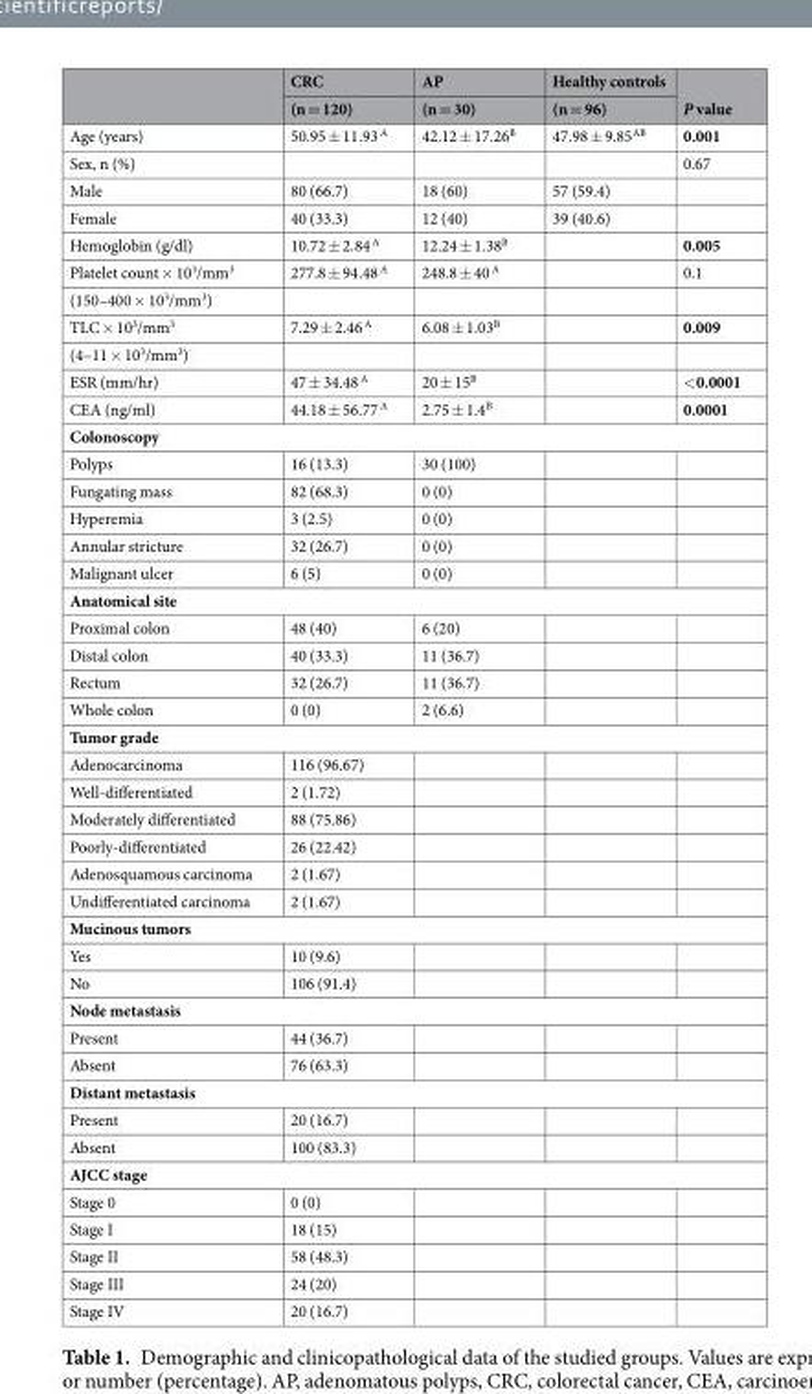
<table><thead><tr><td rowspan="2"></td><td rowspan="2">CRC (n = 120)</td><td rowspan="2">AP (n = 30)</td><td rowspan="2">Healthy controls (n = 96)</td><td rowspan="2">P value</td></tr><tr></tr></thead><tbody><tr><td>Age (years)</td><td>50.95 ± 11.93 <sup>A</sup></td><td>42.12 ± 17.26<sup>B</sup></td><td>47.98 ± 9.85<sup>AB</sup></td><td>0.001</td></tr><tr><td>Sex, n (%)</td><td></td><td></td><td></td><td>0.67</td></tr><tr><td>Male</td><td>80 (66.7)</td><td>18 (60)</td><td>57 (59.4)</td><td></td></tr><tr><td>Female</td><td>40 (33.3)</td><td>12 (40)</td><td>39 (40.6)</td><td></td></tr><tr><td>Hemoglobin (g/dl)</td><td>10.72 ± 2.84 <sup>A</sup></td><td>12.24 ± 1.38<sup>B</sup></td><td></td><td>0.005</td></tr><tr><td>Platelet count × 10<sup>3</sup>/mm<sup>3</sup></td><td>277.8 ± 94.48 <sup>A</sup></td><td>248.8 ± 40 <sup>A</sup></td><td></td><td>0.1</td></tr><tr><td colspan="5">(150–400 × 10<sup>3</sup>/mm<sup>3</sup>)</td></tr><tr><td>TLC × 10<sup>3</sup>/mm<sup>3</sup></td><td>7.29 ± 2.46 <sup>A</sup></td><td>6.08 ± 1.03<sup>B</sup></td><td></td><td>0.009</td></tr><tr><td colspan="5">(4–11 × 10<sup>3</sup>/mm<sup>3</sup>)</td></tr><tr><td>ESR (mm/hr)</td><td>47 ± 34.48 <sup>A</sup></td><td>20 ± 15<sup>B</sup></td><td></td><td>&lt;0.0001</td></tr><tr><td>CEA (ng/ml)</td><td>44.18 ± 56.77 <sup>A</sup></td><td>2.75 ± 1.4<sup>B</sup></td><td></td><td>0.0001</td></tr><tr><td colspan="5">Colonoscopy</td></tr><tr><td>Polyps</td><td>16 (13.3)</td><td>30 (100)</td><td></td><td></td></tr><tr><td>Fungating mass</td><td>82 (68.3)</td><td>0 (0)</td><td></td><td></td></tr><tr><td>Hyperemia</td><td>3 (2.5)</td><td>0 (0)</td><td></td><td></td></tr><tr><td>Annular stricture</td><td>32 (26.7)</td><td>0 (0)</td><td></td><td></td></tr><tr><td>Malignant ulcer</td><td>6 (5)</td><td>0 (0)</td><td></td><td></td></tr><tr><td colspan="5">Anatomical site</td></tr><tr><td>Proximal colon</td><td>48 (40)</td><td>6 (20)</td><td></td><td></td></tr><tr><td>Distal colon</td><td>40 (33.3)</td><td>11 (36.7)</td><td></td><td></td></tr><tr><td>Rectum</td><td>32 (26.7)</td><td>11 (36.7)</td><td></td><td></td></tr><tr><td>Whole colon</td><td>0 (0)</td><td>2 (6.6)</td><td></td><td></td></tr><tr><td colspan="5">Tumor grade</td></tr><tr><td>Adenocarcinoma</td><td>116 (96.67)</td><td></td><td></td><td></td></tr><tr><td>Well-differentiated</td><td>2 (1.72)</td><td></td><td></td><td></td></tr><tr><td>Moderately differentiated</td><td>88 (75.86)</td><td></td><td></td><td></td></tr><tr><td>Poorly-differentiated</td><td>26 (22.42)</td><td></td><td></td><td></td></tr><tr><td>Adenosquamous carcinoma</td><td>2 (1.67)</td><td></td><td></td><td></td></tr><tr><td>Undifferentiated carcinoma</td><td>2 (1.67)</td><td></td><td></td><td></td></tr><tr><td colspan="5">Mucinous tumors</td></tr><tr><td>Yes</td><td>10 (9.6)</td><td></td><td></td><td></td></tr><tr><td>No</td><td>106 (91.4)</td><td></td><td></td><td></td></tr><tr><td colspan="5">Node metastasis</td></tr><tr><td>Present</td><td>44 (36.7)</td><td></td><td></td><td></td></tr><tr><td>Absent</td><td>76 (63.3)</td><td></td><td></td><td></td></tr><tr><td colspan="5">Distant metastasis</td></tr><tr><td>Present</td><td>20 (16.7)</td><td></td><td></td><td></td></tr><tr><td>Absent</td><td>100 (83.3)</td><td></td><td></td><td></td></tr><tr><td colspan="5">AJCC stage</td></tr><tr><td>Stage 0</td><td>0 (0)</td><td></td><td></td><td></td></tr><tr><td>Stage I</td><td>18 (15)</td><td></td><td></td><td></td></tr><tr><td>Stage II</td><td>58 (48.3)</td><td></td><td></td><td></td></tr><tr><td>Stage III</td><td>24 (20)</td><td></td><td></td><td></td></tr><tr><td>Stage IV</td><td>20 (16.7)</td><td></td><td></td><td></td></tr></tbody></table>